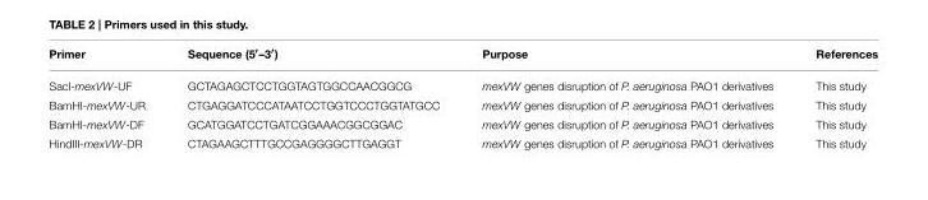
<table><thead><tr><td>Primer</td><td>Sequence (5′–3′)</td><td>Purpose</td><td>References</td></tr></thead><tbody><tr><td>SacI-mexVW-UF</td><td>GCTAGAGCTCCTGGTAGTGGCCAACGGCG</td><td>mexVW genes disruption of P. aeruginosa PAO1 derivatives</td><td>This study</td></tr><tr><td>BamHI-mexVW-UR</td><td>CTGAGGATCCCATAATCCTGGTCCCTGGTATGCC</td><td>mexVW genes disruption of P. aeruginosa PAO1 derivatives</td><td>This study</td></tr><tr><td>BamHI-mexVW-DF</td><td>GCATGGATCCTGATCGGAAACGGCGGAC</td><td>mexVW genes disruption of P. aeruginosa PAO1 derivatives</td><td>This study</td></tr><tr><td>HindIII-mexVW-DR</td><td>CTAGAAGCTTTGCCGAGGGGCTTGAGGT</td><td>mexVW genes disruption of P. aeruginosa PAO1 derivatives</td><td>This study</td></tr></tbody></table>